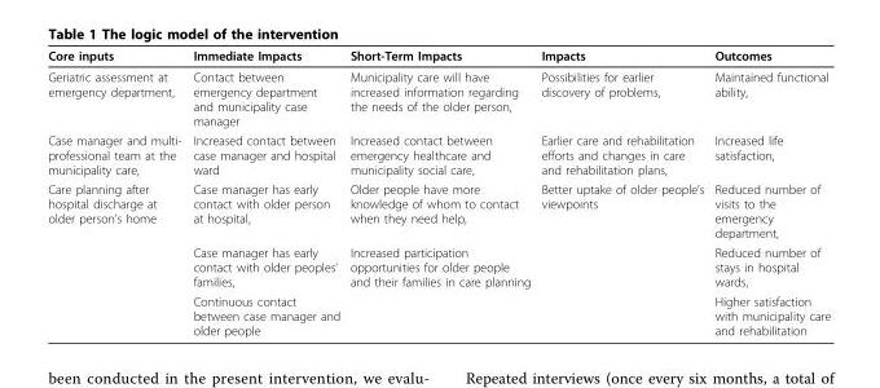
<table><thead><tr><td>Core inputs</td><td>Immediate Impacts</td><td>Short-Term Impacts</td><td>Impacts</td><td>Outcomes</td></tr></thead><tbody><tr><td>Geriatric assessment at emergency department,</td><td>Contact between emergency department and municipality case manager</td><td>Municipality care will have increased information regarding the needs of the older person,</td><td>Possibilities for earlier discovery of problems,</td><td>Maintained functional ability,</td></tr><tr><td>Case manager and multi- professional team at the municipality care,</td><td>Increased contact between case manager and hospital ward</td><td>Increased contact between emergency healthcare and municipality social care,</td><td>Earlier care and rehabilitation efforts and changes in care and rehabilitation plans,</td><td>Increased life satisfaction,</td></tr><tr><td rowspan="3">Care planning after hospital discharge at older person’s home</td><td>Case manager has early contact with older person at hospital,</td><td>Older people have more knowledge of whom to contact when they need help,</td><td>Better uptake of older people’s viewpoints</td><td>Reduced number of visits to the emergency department,</td></tr><tr><td>Case manager has early contact with older peoples’ families,</td><td>Increased participation opportunities for older people and their families in care planning</td><td></td><td>Reduced number of stays in hospital wards,</td></tr><tr><td>Continuous contact between case manager and older people</td><td></td><td></td><td>Higher satisfaction with municipality care and rehabilitation</td></tr></tbody></table>